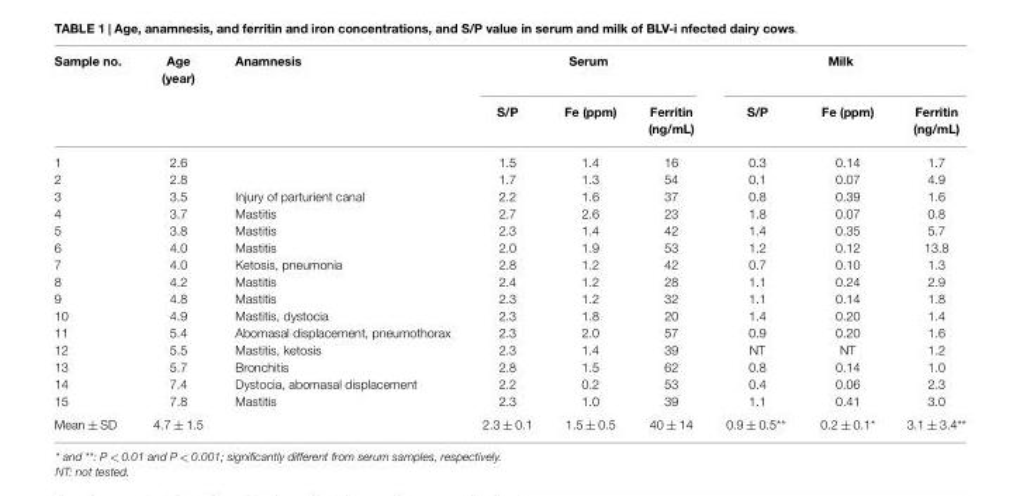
<table><thead><tr><td rowspan="2">Sample no.</td><td rowspan="2">Age (year)</td><td rowspan="2">Anamnesis</td><td colspan="3">Serum</td><td colspan="3">Milk</td></tr><tr><td>S/P</td><td>Fe (ppm)</td><td>Ferritin (ng/mL)</td><td>S/P</td><td>Fe (ppm)</td><td>Ferritin (ng/mL)</td></tr></thead><tbody><tr><td>1</td><td>2.6</td><td></td><td>1.5</td><td>1.4</td><td>16</td><td>0.3</td><td>0.14</td><td>1.7</td></tr><tr><td>2</td><td>2.8</td><td></td><td>1.7</td><td>1.3</td><td>54</td><td>0.1</td><td>0.07</td><td>4.9</td></tr><tr><td>3</td><td>3.5</td><td>Injury of parturient canal</td><td>2.2</td><td>1.6</td><td>37</td><td>0.8</td><td>0.39</td><td>1.6</td></tr><tr><td>4</td><td>3.7</td><td>Mastitis</td><td>2.7</td><td>2.6</td><td>23</td><td>1.8</td><td>0.07</td><td>0.8</td></tr><tr><td>5</td><td>3.8</td><td>Mastitis</td><td>2.3</td><td>1.4</td><td>42</td><td>1.4</td><td>0.35</td><td>5.7</td></tr><tr><td>6</td><td>4.0</td><td>Mastitis</td><td>2.0</td><td>1.9</td><td>53</td><td>1.2</td><td>0.12</td><td>13.8</td></tr><tr><td>7</td><td>4.0</td><td>Ketosis, pneumonia</td><td>2.8</td><td>1.2</td><td>42</td><td>0.7</td><td>0.10</td><td>1.3</td></tr><tr><td>8</td><td>4.2</td><td>Mastitis</td><td>2.4</td><td>1.2</td><td>28</td><td>1.1</td><td>0.24</td><td>2.9</td></tr><tr><td>9</td><td>4.8</td><td>Mastitis</td><td>2.3</td><td>1.2</td><td>32</td><td>1.1</td><td>0.14</td><td>1.8</td></tr><tr><td>10</td><td>4.9</td><td>Mastitis, dystocia</td><td>2.3</td><td>1.8</td><td>20</td><td>1.4</td><td>0.20</td><td>1.4</td></tr><tr><td>11</td><td>5.4</td><td>Abomasal displacement, pneumothorax</td><td>2.3</td><td>2.0</td><td>57</td><td>0.9</td><td>0.20</td><td>1.6</td></tr><tr><td>12</td><td>5.5</td><td>Mastitis, ketosis</td><td>2.3</td><td>1.4</td><td>39</td><td>NT</td><td>NT</td><td>1.2</td></tr><tr><td>13</td><td>5.7</td><td>Bronchitis</td><td>2.8</td><td>1.5</td><td>62</td><td>0.8</td><td>0.14</td><td>1.0</td></tr><tr><td>14</td><td>7.4</td><td>Dystocia, abomasal displacement</td><td>2.2</td><td>0.2</td><td>53</td><td>0.4</td><td>0.06</td><td>2.3</td></tr><tr><td>15</td><td>7.8</td><td>Mastitis</td><td>2.3</td><td>1.0</td><td>39</td><td>1.1</td><td>0.41</td><td>3.0</td></tr><tr><td>Mean ± SD</td><td>4.7 ± 1.5</td><td></td><td>2.3 ± 0.1</td><td>1.5 ± 0.5</td><td>40 ± 14</td><td>0.9 ± 0.5**</td><td>0.2 ± 0.1*</td><td>3.1 ± 3.4**</td></tr></tbody></table>